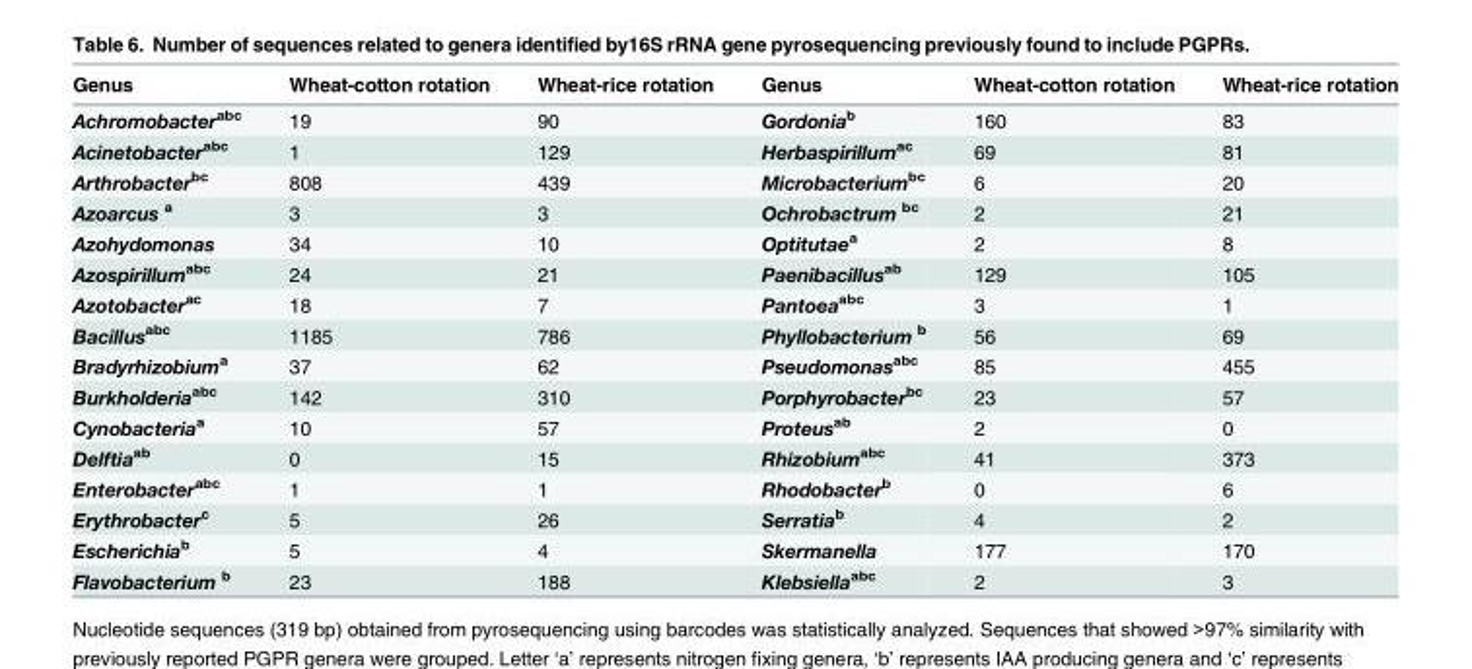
<table><thead><tr><td>Genus</td><td>Wheat-cotton rotation</td><td>Wheat-rice rotation</td><td>Genus</td><td>Wheat-cotton rotation</td><td>Wheat-rice rotation</td></tr></thead><tbody><tr><td>Achromobacter<sup>abc</sup></td><td>19</td><td>90</td><td>Gordonia<sup>b</sup></td><td>160</td><td>83</td></tr><tr><td>Acinetobacter<sup>abc</sup></td><td>1</td><td>129</td><td>Herbaspirillum<sup>ac</sup></td><td>69</td><td>81</td></tr><tr><td>Arthrobacter<sup>bc</sup></td><td>808</td><td>439</td><td>Microbacterium<sup>bc</sup></td><td>6</td><td>20</td></tr><tr><td>Azoarcus <sup>a</sup></td><td>3</td><td>3</td><td>Ochrobactrum <sup>bc</sup></td><td>2</td><td>21</td></tr><tr><td>Azohydomonas</td><td>34</td><td>10</td><td>Optitutae<sup>a</sup></td><td>2</td><td>8</td></tr><tr><td>Azospirillum<sup>abc</sup></td><td>24</td><td>21</td><td>Paenibacillus<sup>ab</sup></td><td>129</td><td>105</td></tr><tr><td>Azotobacter<sup>ac</sup></td><td>18</td><td>7</td><td>Pantoea<sup>abc</sup></td><td>3</td><td>1</td></tr><tr><td>Bacillus<sup>abc</sup></td><td>1185</td><td>786</td><td>Phyllobacterium <sup>b</sup></td><td>56</td><td>69</td></tr><tr><td>Bradyrhizobium<sup>a</sup></td><td>37</td><td>62</td><td>Pseudomonas<sup>abc</sup></td><td>85</td><td>455</td></tr><tr><td>Burkholderia<sup>abc</sup></td><td>142</td><td>310</td><td>Porphyrobacter<sup>bc</sup></td><td>23</td><td>57</td></tr><tr><td>Cynobacteria<sup>a</sup></td><td>10</td><td>57</td><td>Proteus<sup>ab</sup></td><td>2</td><td>0</td></tr><tr><td>Delftia<sup>ab</sup></td><td>0</td><td>15</td><td>Rhizobium<sup>abc</sup></td><td>41</td><td>373</td></tr><tr><td>Enterobacter<sup>abc</sup></td><td>1</td><td>1</td><td>Rhodobacter<sup>b</sup></td><td>0</td><td>6</td></tr><tr><td>Erythrobacter<sup>c</sup></td><td>5</td><td>26</td><td>Serratia<sup>b</sup></td><td>4</td><td>2</td></tr><tr><td>Escherichia<sup>b</sup></td><td>5</td><td>4</td><td>Skermanella</td><td>177</td><td>170</td></tr><tr><td>Flavobacterium <sup>b</sup></td><td>23</td><td>188</td><td>Klebsiella<sup>abc</sup></td><td>2</td><td>3</td></tr></tbody></table>